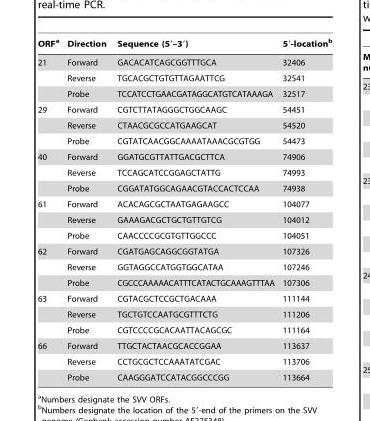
<table><thead><tr><td>ORF<sup>a</sup></td><td>Direction</td><td>Sequence (5′–3′)</td><td>5′-location<sup>b</sup></td></tr></thead><tbody><tr><td rowspan="3">21</td><td>Forward</td><td>GACACATCAGCGGTTTGCA</td><td>32406</td></tr><tr><td>Reverse</td><td>TGCACGCTGTGTTAGAATTCG</td><td>32541</td></tr><tr><td>Probe</td><td>TCCATCCTGAACGATAGGCATGTCATAAAGA</td><td>32517</td></tr><tr><td rowspan="3">29</td><td>Forward</td><td>CGTCTTATAGGGCTGGCAAGC</td><td>54451</td></tr><tr><td>Reverse</td><td>CTAACGCGCCATGAAGCAT</td><td>54520</td></tr><tr><td>Probe</td><td>CGTATCAACGGCAAAATAAACGCGTGG</td><td>54473</td></tr><tr><td rowspan="3">40</td><td>Forward</td><td>GGATGCGTTATTGACGCTTCA</td><td>74906</td></tr><tr><td>Reverse</td><td>TCCAGCATCCGGAGCTATTG</td><td>74993</td></tr><tr><td>Probe</td><td>CGGATATGGCAGAACGTACCACTCCAA</td><td>74938</td></tr><tr><td rowspan="3">61</td><td>Forward</td><td>ACACAGCGCTAATGAGAAGCC</td><td>104077</td></tr><tr><td>Reverse</td><td>GAAAGACGCTGCTGTTGTCG</td><td>104012</td></tr><tr><td>Probe</td><td>CAACCCCGCGTGTTGGCCC</td><td>104051</td></tr><tr><td rowspan="3">62</td><td>Forward</td><td>CGATGAGCAGGCGGTATGA</td><td>107326</td></tr><tr><td>Reverse</td><td>GGTAGGCCATGGTGGCATAA</td><td>107246</td></tr><tr><td>Probe</td><td>CGCCCAAAAACATTTCATACTGCAAAGTTTAA</td><td>107306</td></tr><tr><td rowspan="3">63</td><td>Forward</td><td>CGTACGCTCCGCTGACAAA</td><td>111144</td></tr><tr><td>Reverse</td><td>TGCTGTCCAATGCGTTTCTG</td><td>111206</td></tr><tr><td>Probe</td><td>CGTCCCCGCACAATTACAGCGC</td><td>111164</td></tr><tr><td rowspan="3">66</td><td>Forward</td><td>TTGCTACTAACGCACCGGAA</td><td>113637</td></tr><tr><td>Reverse</td><td>CCTGCGCTCCAAATATCGAC</td><td>113706</td></tr><tr><td>Probe</td><td>CAAGGGATCCATACGGCCCGG</td><td>113664</td></tr></tbody></table>